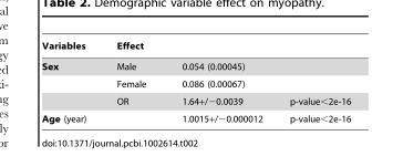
<table><thead><tr><td rowspan="2">Variables Sex</td><td colspan="3">Effect</td></tr><tr><td>Male</td><td>0.054 (0.00045)</td><td></td></tr></thead><tbody><tr><td></td><td>Female</td><td>0.086 (0.00067)</td><td></td></tr><tr><td></td><td>OR</td><td>1.64+/−0.0039</td><td>p-value&lt;2e-16</td></tr><tr><td>Age (year)</td><td></td><td>1.0015+/−0.000012</td><td>p-value&lt;2e-16</td></tr></tbody></table>